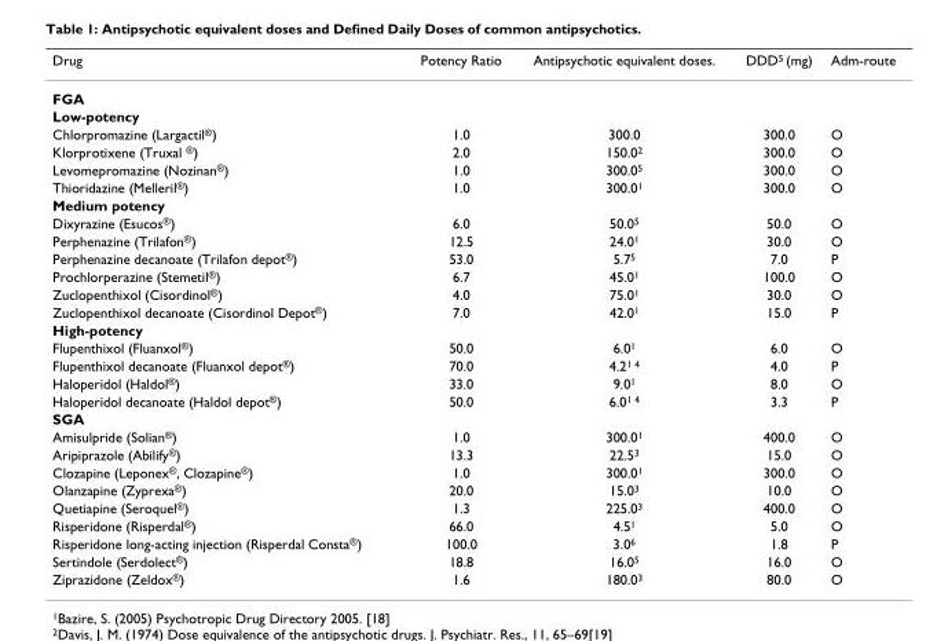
<table><thead><tr><td>Drug</td><td>Potency Ratio</td><td>Antipsychotic equivalent doses.</td><td>DDD<sup>5</sup> (mg)</td><td>Adm-route</td></tr></thead><tbody><tr><td colspan="5">FGA</td></tr><tr><td colspan="5">Low-potency</td></tr><tr><td>Chlorpromazine (Largactil<sup>®</sup>)</td><td>1.0</td><td>300.0</td><td>300.0</td><td>O</td></tr><tr><td>Klorprotixene (Truxal <sup>®</sup>)</td><td>2.0</td><td>150.0<sup>2</sup></td><td>300.0</td><td>O</td></tr><tr><td>Levomepromazine (Nozinan<sup>®</sup>)</td><td>1.0</td><td>300.0<sup>5</sup></td><td>300.0</td><td>O</td></tr><tr><td>Thioridazine (Melleril<sup>®</sup>)</td><td>1.0</td><td>300.0<sup>1</sup></td><td>300.0</td><td>O</td></tr><tr><td colspan="5">Medium potency</td></tr><tr><td>Dixyrazine (Esucos<sup>®</sup>)</td><td>6.0</td><td>50.0<sup>5</sup></td><td>50.0</td><td>O</td></tr><tr><td>Perphenazine (Trilafon<sup>®</sup>)</td><td>12.5</td><td>24.0<sup>1</sup></td><td>30.0</td><td>O</td></tr><tr><td>Perphenazine decanoate (Trilafon depot<sup>®</sup>)</td><td>53.0</td><td>5.7<sup>5</sup></td><td>7.0</td><td>P</td></tr><tr><td>Prochlorperazine (Stemetil<sup>®</sup>)</td><td>6.7</td><td>45.0<sup>1</sup></td><td>100.0</td><td>O</td></tr><tr><td>Zuclopenthixol (Cisordinol<sup>®</sup>)</td><td>4.0</td><td>75.0<sup>1</sup></td><td>30.0</td><td>O</td></tr><tr><td>Zuclopenthixol decanoate (Cisordinol Depot<sup>®</sup>)</td><td>7.0</td><td>42.0<sup>1</sup></td><td>15.0</td><td>P</td></tr><tr><td colspan="5">High-potency</td></tr><tr><td>Flupenthixol (Fluanxol<sup>®</sup>)</td><td>50.0</td><td>6.0<sup>1</sup></td><td>6.0</td><td>O</td></tr><tr><td>Flupenthixol decanoate (Fluanxol depot<sup>®</sup>)</td><td>70.0</td><td>4.2<sup>1 4</sup></td><td>4.0</td><td>P</td></tr><tr><td>Haloperidol (Haldol<sup>®</sup>)</td><td>33.0</td><td>9.0<sup>1</sup></td><td>8.0</td><td>O</td></tr><tr><td>Haloperidol decanoate (Haldol depot<sup>®</sup>)</td><td>50.0</td><td>6.0<sup>1 4</sup></td><td>3.3</td><td>P</td></tr><tr><td colspan="5">SGA</td></tr><tr><td>Amisulpride (Solian<sup>®</sup>)</td><td>1.0</td><td>300.0<sup>1</sup></td><td>400.0</td><td>O</td></tr><tr><td>Aripiprazole (Abilify<sup>®</sup>)</td><td>13.3</td><td>22.5<sup>3</sup></td><td>15.0</td><td>O</td></tr><tr><td>Clozapine (Leponex<sup>®</sup>, Clozapine<sup>®</sup>)</td><td>1.0</td><td>300.0<sup>1</sup></td><td>300.0</td><td>O</td></tr><tr><td>Olanzapine (Zyprexa<sup>®</sup>)</td><td>20.0</td><td>15.0<sup>3</sup></td><td>10.0</td><td>O</td></tr><tr><td>Quetiapine (Seroquel<sup>®</sup>)</td><td>1.3</td><td>225.0<sup>3</sup></td><td>400.0</td><td>O</td></tr><tr><td>Risperidone (Risperdal<sup>®</sup>)</td><td>66.0</td><td>4.5<sup>1</sup></td><td>5.0</td><td>O</td></tr><tr><td>Risperidone long-acting injection (Risperdal Consta<sup>®</sup>)</td><td>100.0</td><td>3.0<sup>6</sup></td><td>1.8</td><td>P</td></tr><tr><td>Sertindole (Serdolect<sup>®</sup>)</td><td>18.8</td><td>16.0<sup>5</sup></td><td>16.0</td><td>O</td></tr><tr><td>Ziprazidone (Zeldox<sup>®</sup>)</td><td>1.6</td><td>180.0<sup>3</sup></td><td>80.0</td><td>O</td></tr></tbody></table>